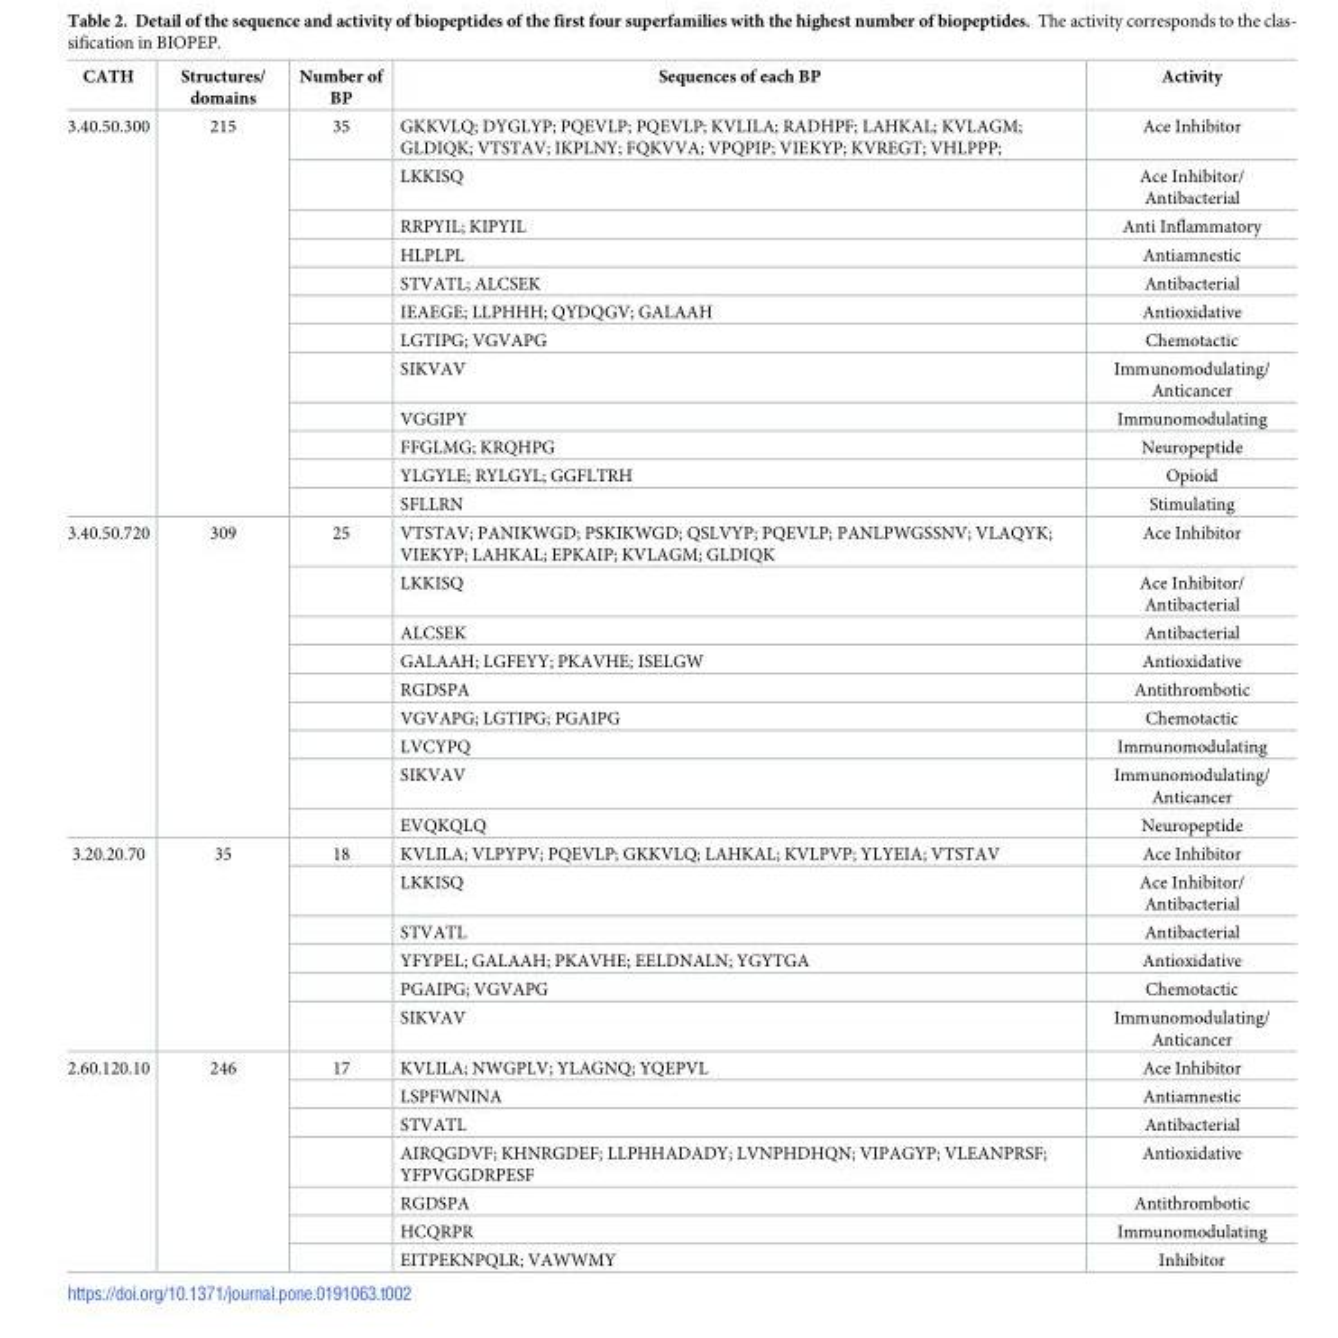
<table><thead><tr><td>CATH</td><td>Structures/ domains</td><td>Number of BP</td><td>Sequences of each BP</td><td>Activity</td></tr></thead><tbody><tr><td rowspan="12">3.40.50.300</td><td rowspan="12">215</td><td>35</td><td>GKKVLQ; DYGLYP; PQEVLP; PQEVLP; KVLILA; RADHPF; LAHKAL; KVLAGM; GLDIQK; VTSTAV; IKPLNY; FQKVVA; VPQPIP; VIEKYP; KVREGT; VHLPPP;</td><td>Ace Inhibitor</td></tr><tr><td></td><td>LKKISQ</td><td>Ace Inhibitor/ Antibacterial</td></tr><tr><td></td><td>RRPYIL; KIPYIL</td><td>Anti Inflammatory</td></tr><tr><td></td><td>HLPLPL</td><td>Antiamnestic</td></tr><tr><td></td><td>STVATL; ALCSEK</td><td>Antibacterial</td></tr><tr><td></td><td>IEAEGE; LLPHHH; QYDQGV; GALAAH</td><td>Antioxidative</td></tr><tr><td></td><td>LGTIPG; VGVAPG</td><td>Chemotactic</td></tr><tr><td></td><td>SIKVAV</td><td>Immunomodulating/ Anticancer</td></tr><tr><td></td><td>VGGIPY</td><td>Immunomodulating</td></tr><tr><td></td><td>FFGLMG; KRQHPG</td><td>Neuropeptide</td></tr><tr><td></td><td>YLGYLE; RYLGYL; GGFLTRH</td><td>Opioid</td></tr><tr><td></td><td>SFLLRN</td><td>Stimulating</td></tr><tr><td rowspan="9">3.40.50.720</td><td rowspan="9">309</td><td>25</td><td>VTSTAV; PANIKWGD; PSKIKWGD; QSLVYP; PQEVLP; PANLPWGSSNV; VLAQYK; VIEKYP; LAHKAL; EPKAIP; KVLAGM; GLDIQK</td><td>Ace Inhibitor</td></tr><tr><td></td><td>LKKISQ</td><td>Ace Inhibitor/ Antibacterial</td></tr><tr><td></td><td>ALCSEK</td><td>Antibacterial</td></tr><tr><td></td><td>GALAAH; LGFEYY; PKAVHE; ISELGW</td><td>Antioxidative</td></tr><tr><td></td><td>RGDSPA</td><td>Antithrombotic</td></tr><tr><td></td><td>VGVAPG; LGTIPG; PGAIPG</td><td>Chemotactic</td></tr><tr><td></td><td>LVCYPQ</td><td>Immunomodulating</td></tr><tr><td></td><td>SIKVAV</td><td>Immunomodulating/ Anticancer</td></tr><tr><td></td><td>EVQKQLQ</td><td>Neuropeptide</td></tr><tr><td rowspan="6">3.20.20.70</td><td rowspan="6">35</td><td>18</td><td>KVLILA; VLPYPV; PQEVLP; GKKVLQ; LAHKAL; KVLPVP; YLYEIA; VTSTAV</td><td>Ace Inhibitor</td></tr><tr><td></td><td>LKKISQ</td><td>Ace Inhibitor/ Antibacterial</td></tr><tr><td></td><td>STVATL</td><td>Antibacterial</td></tr><tr><td></td><td>YFYPEL; GALAAH; PKAVHE; EELDNALN; YGYTGA</td><td>Antioxidative</td></tr><tr><td></td><td>PGAIPG; VGVAPG</td><td>Chemotactic</td></tr><tr><td></td><td>SIKVAV</td><td>Immunomodulating/ Anticancer</td></tr><tr><td rowspan="7">2.60.120.10</td><td rowspan="7">246</td><td>17</td><td>KVLILA; NWGPLV; YLAGNQ; YQEPVL</td><td>Ace Inhibitor</td></tr><tr><td></td><td>LSPFWNINA</td><td>Antiamnestic</td></tr><tr><td></td><td>STVATL</td><td>Antibacterial</td></tr><tr><td></td><td>AIRQGDVF; KHNRGDEF; LLPHHADADY; LVNPHDHQN; VIPAGYP; VLEANPRSF; YFPVGGDRPESF</td><td>Antioxidative</td></tr><tr><td></td><td>RGDSPA</td><td>Antithrombotic</td></tr><tr><td></td><td>HCQRPR</td><td>Immunomodulating</td></tr><tr><td></td><td>EITPEKNPQLR; VAWWMY</td><td>Inhibitor</td></tr></tbody></table>